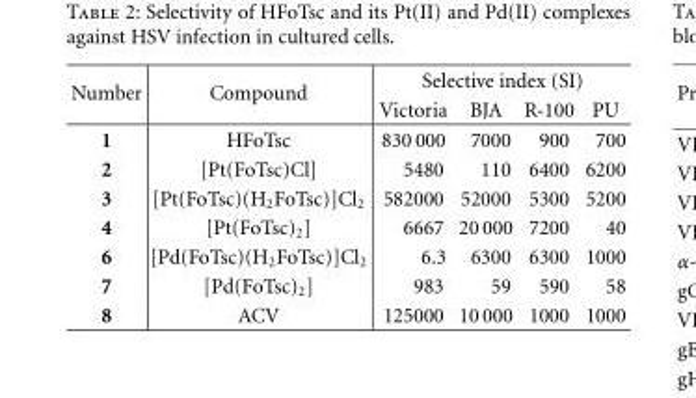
<table><tbody><tr><td rowspan="2">Number</td><td rowspan="2">Compound</td><td colspan="4">Selective index (SI)</td></tr><tr><td>Victoria</td><td>BJA</td><td>R-100</td><td>PU</td></tr><tr><td>1</td><td>HFoTsc</td><td>830 000</td><td>7000</td><td>900</td><td>700</td></tr><tr><td>2</td><td>[Pt(FoTsc)Cl]</td><td>5480</td><td>110</td><td>6400</td><td>6200</td></tr><tr><td>3</td><td>[Pt(FoTsc)(H<sub>2</sub>FoTsc)]Cl<sub>2</sub></td><td>582000</td><td>52000</td><td>5300</td><td>5200</td></tr><tr><td>4</td><td>[Pt(FoTsc)<sub>2</sub>]</td><td>6667</td><td>20 000</td><td>7200</td><td>40</td></tr><tr><td>6</td><td>[Pd(FoTsc)(H<sub>2</sub>FoTsc)]Cl<sub>2</sub></td><td>6.3</td><td>6300</td><td>6300</td><td>1000</td></tr><tr><td>7</td><td>[Pd(FoTsc)<sub>2</sub>]</td><td>983</td><td>59</td><td>590</td><td>58</td></tr><tr><td>8</td><td>ACV</td><td>125000</td><td>10 000</td><td>1000</td><td>1000</td></tr></tbody></table>